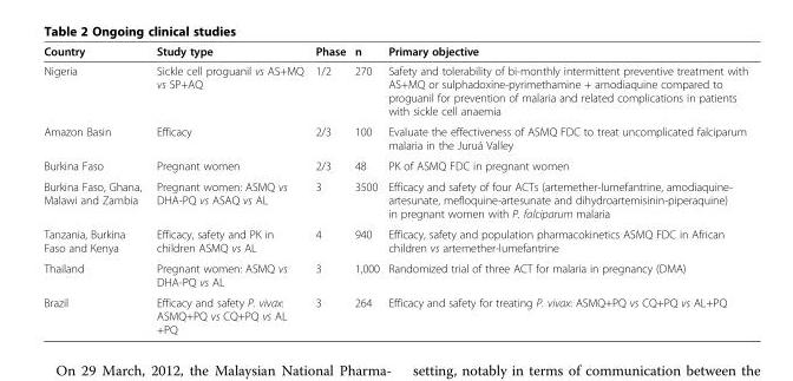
<table><thead><tr><td>Country</td><td>Study type</td><td>Phase</td><td>n</td><td>Primary objective</td></tr></thead><tbody><tr><td>Nigeria</td><td>Sickle cell proguanil vs AS+MQ vs SP+AQ</td><td>1/2</td><td>270</td><td>Safety and tolerability of bi-monthly intermittent preventive treatment with AS+MQ or sulphadoxine-pyrimethamine + amodiaquine compared to proguanil for prevention of malaria and related complications in patients with sickle cell anaemia</td></tr><tr><td>Amazon Basin</td><td>Efficacy</td><td>2/3</td><td>100</td><td>Evaluate the effectiveness of ASMQ FDC to treat uncomplicated falciparum malaria in the Juruá Valley</td></tr><tr><td>Burkina Faso</td><td>Pregnant women</td><td>2/3</td><td>48</td><td>PK of ASMQ FDC in pregnant women</td></tr><tr><td>Burkina Faso, Ghana, Malawi and Zambia</td><td>Pregnant women: ASMQ vs DHA-PQ vs ASAQ vs AL</td><td>3</td><td>3500</td><td>Efficacy and safety of four ACTs (artemether-lumefantrine, amodiaquine- artesunate, mefloquine-artesunate and dihydroartemisinin-piperaquine) in pregnant women with P. falciparum malaria</td></tr><tr><td>Tanzania, Burkina Faso and Kenya</td><td>Efficacy, safety and PK in children ASMQ vs AL</td><td>4</td><td>940</td><td>Efficacy, safety and population pharmacokinetics ASMQ FDC in African children vs artemether-lumefantrine</td></tr><tr><td>Thailand</td><td>Pregnant women: ASMQ vs DHA-PQ vs AL</td><td>3</td><td>1,000</td><td>Randomized trial of three ACT for malaria in pregnancy (DMA)</td></tr><tr><td>Brazil</td><td>Efficacy and safety P. vivax: ASMQ+PQ vs CQ+PQ vs AL +PQ</td><td>3</td><td>264</td><td>Efficacy and safety for treating P. vivax: ASMQ+PQ vs CQ+PQ vs AL+PQ</td></tr></tbody></table>